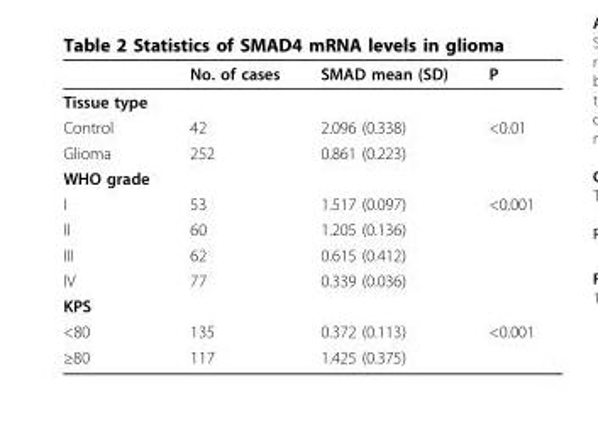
<table><thead><tr><td></td><td>No. of cases</td><td>SMAD mean (SD)</td><td>P</td></tr></thead><tbody><tr><td colspan="4">Tissue type</td></tr><tr><td>Control</td><td>42</td><td>2.096 (0.338)</td><td>&lt;0.01</td></tr><tr><td>Glioma</td><td>252</td><td>0.861 (0.223)</td><td></td></tr><tr><td colspan="4">WHO grade</td></tr><tr><td>I</td><td>53</td><td>1.517 (0.097)</td><td>&lt;0.001</td></tr><tr><td>II</td><td>60</td><td>1.205 (0.136)</td><td></td></tr><tr><td>III</td><td>62</td><td>0.615 (0.412)</td><td></td></tr><tr><td>IV</td><td>77</td><td>0.339 (0.036)</td><td></td></tr><tr><td colspan="4">KPS</td></tr><tr><td>&lt;80</td><td>135</td><td>0.372 (0.113)</td><td>&lt;0.001</td></tr><tr><td>≥80</td><td>117</td><td>1.425 (0.375)</td><td></td></tr></tbody></table>